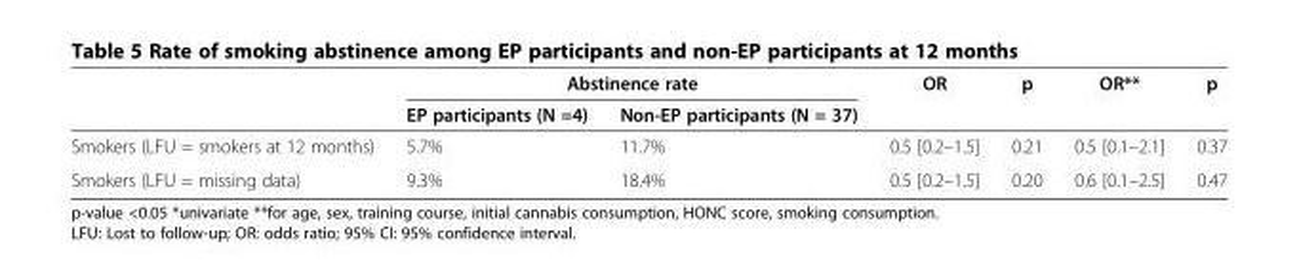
<table><thead><tr><td rowspan="2"></td><td colspan="2">Abstinence rate</td><td rowspan="2">OR</td><td rowspan="2">p</td><td rowspan="2">OR**</td><td rowspan="2">p</td></tr><tr><td>EP participants (N =4)</td><td>Non-EP participants (N = 37)</td></tr></thead><tbody><tr><td>Smokers (LFU = smokers at 12 months)</td><td>5.7%</td><td>11.7%</td><td>0.5 [0.2–1.5]</td><td>0.21</td><td>0.5 [0.1–2.1]</td><td>0.37</td></tr><tr><td>Smokers (LFU = missing data)</td><td>9.3%</td><td>18.4%</td><td>0.5 [0.2–1.5]</td><td>0.20</td><td>0.6 [0.1–2.5]</td><td>0.47</td></tr></tbody></table>